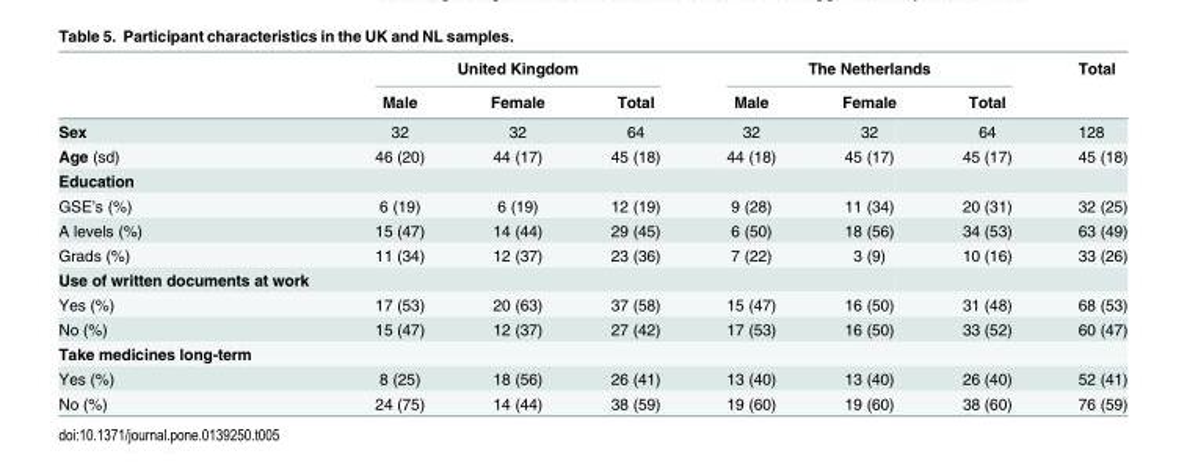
<table><thead><tr><td rowspan="2"></td><td colspan="3">United Kingdom</td><td colspan="3">The Netherlands</td><td rowspan="2">Total</td></tr><tr><td>Male</td><td>Female</td><td>Total</td><td>Male</td><td>Female</td><td>Total</td></tr></thead><tbody><tr><td>Sex</td><td>32</td><td>32</td><td>64</td><td>32</td><td>32</td><td>64</td><td>128</td></tr><tr><td>Age (sd)</td><td>46 (20)</td><td>44 (17)</td><td>45 (18)</td><td>44 (18)</td><td>45 (17)</td><td>45 (17)</td><td>45 (18)</td></tr><tr><td colspan="8">Education</td></tr><tr><td>GSE’s (%)</td><td>6 (19)</td><td>6 (19)</td><td>12 (19)</td><td>9 (28)</td><td>11 (34)</td><td>20 (31)</td><td>32 (25)</td></tr><tr><td>A levels (%)</td><td>15 (47)</td><td>14 (44)</td><td>29 (45)</td><td>6 (50)</td><td>18 (56)</td><td>34 (53)</td><td>63 (49)</td></tr><tr><td>Grads (%)</td><td>11 (34)</td><td>12 (37)</td><td>23 (36)</td><td>7 (22)</td><td>3 (9)</td><td>10 (16)</td><td>33 (26)</td></tr><tr><td colspan="8">Use of written documents at work</td></tr><tr><td>Yes (%)</td><td>17 (53)</td><td>20 (63)</td><td>37 (58)</td><td>15 (47)</td><td>16 (50)</td><td>31 (48)</td><td>68 (53)</td></tr><tr><td>No (%)</td><td>15 (47)</td><td>12 (37)</td><td>27 (42)</td><td>17 (53)</td><td>16 (50)</td><td>33 (52)</td><td>60 (47)</td></tr><tr><td colspan="8">Take medicines long-term</td></tr><tr><td>Yes (%)</td><td>8 (25)</td><td>18 (56)</td><td>26 (41)</td><td>13 (40)</td><td>13 (40)</td><td>26 (40)</td><td>52 (41)</td></tr><tr><td>No (%)</td><td>24 (75)</td><td>14 (44)</td><td>38 (59)</td><td>19 (60)</td><td>19 (60)</td><td>38 (60)</td><td>76 (59)</td></tr></tbody></table>